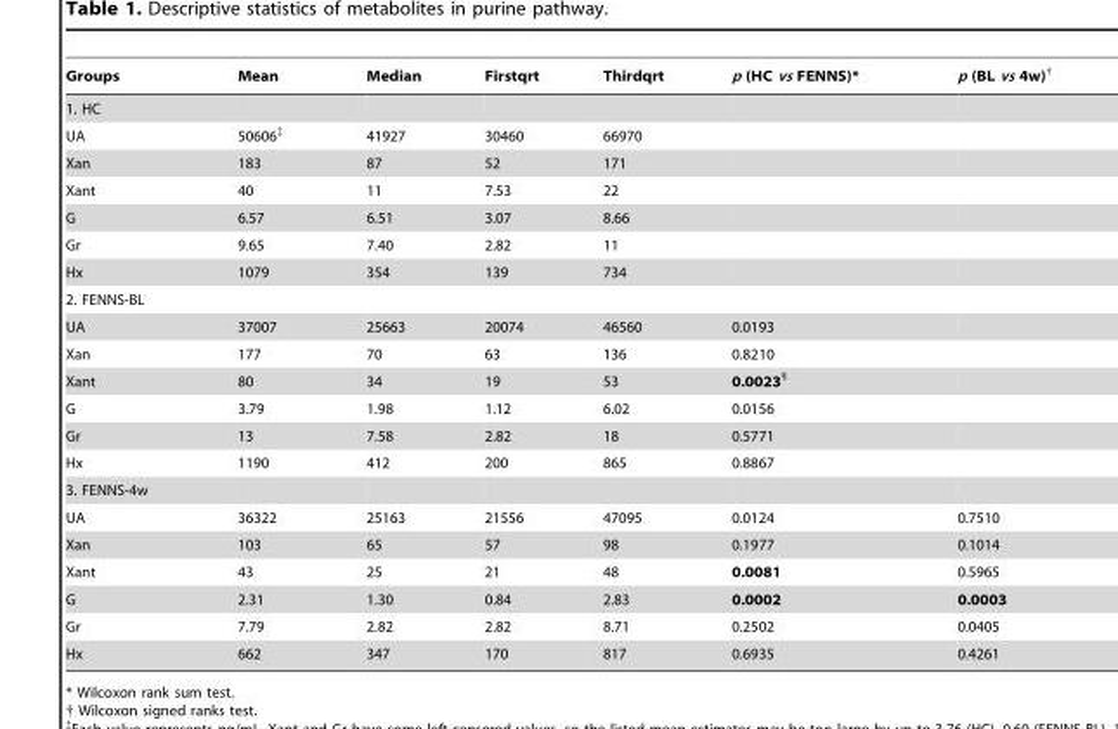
<table><thead><tr><td>Groups</td><td>Mean</td><td>Median</td><td>Firstqrt</td><td>Thirdqrt</td><td>p (HC vs FENNS)*</td><td>p (BL vs 4w)†</td></tr></thead><tbody><tr><td colspan="7">1. HC</td></tr><tr><td>UA</td><td>50606‡</td><td>41927</td><td>30460</td><td>66970</td><td></td><td></td></tr><tr><td>Xan</td><td>183</td><td>87</td><td>52</td><td>171</td><td></td><td></td></tr><tr><td>Xant</td><td>40</td><td>11</td><td>7.53</td><td>22</td><td></td><td></td></tr><tr><td>G</td><td>6.57</td><td>6.51</td><td>3.07</td><td>8.66</td><td></td><td></td></tr><tr><td>Gr</td><td>9.65</td><td>7.40</td><td>2.82</td><td>11</td><td></td><td></td></tr><tr><td>Hx</td><td>1079</td><td>354</td><td>139</td><td>734</td><td></td><td></td></tr><tr><td colspan="7">2. FENNS-BL</td></tr><tr><td>UA</td><td>37007</td><td>25663</td><td>20074</td><td>46560</td><td>0.0193</td><td></td></tr><tr><td>Xan</td><td>177</td><td>70</td><td>63</td><td>136</td><td>0.8210</td><td></td></tr><tr><td>Xant</td><td>80</td><td>34</td><td>19</td><td>53</td><td>0.0023§</td><td></td></tr><tr><td>G</td><td>3.79</td><td>1.98</td><td>1.12</td><td>6.02</td><td>0.0156</td><td></td></tr><tr><td>Gr</td><td>13</td><td>7.58</td><td>2.82</td><td>18</td><td>0.5771</td><td></td></tr><tr><td>Hx</td><td>1190</td><td>412</td><td>200</td><td>865</td><td>0.8867</td><td></td></tr><tr><td colspan="7">3. FENNS-4w</td></tr><tr><td>UA</td><td>36322</td><td>25163</td><td>21556</td><td>47095</td><td>0.0124</td><td>0.7510</td></tr><tr><td>Xan</td><td>103</td><td>65</td><td>57</td><td>98</td><td>0.1977</td><td>0.1014</td></tr><tr><td>Xant</td><td>43</td><td>25</td><td>21</td><td>48</td><td>0.0081</td><td>0.5965</td></tr><tr><td>G</td><td>2.31</td><td>1.30</td><td>0.84</td><td>2.83</td><td>0.0002</td><td>0.0003</td></tr><tr><td>Gr</td><td>7.79</td><td>2.82</td><td>2.82</td><td>8.71</td><td>0.2502</td><td>0.0405</td></tr><tr><td>Hx</td><td>662</td><td>347</td><td>170</td><td>817</td><td>0.6935</td><td>0.4261</td></tr></tbody></table>